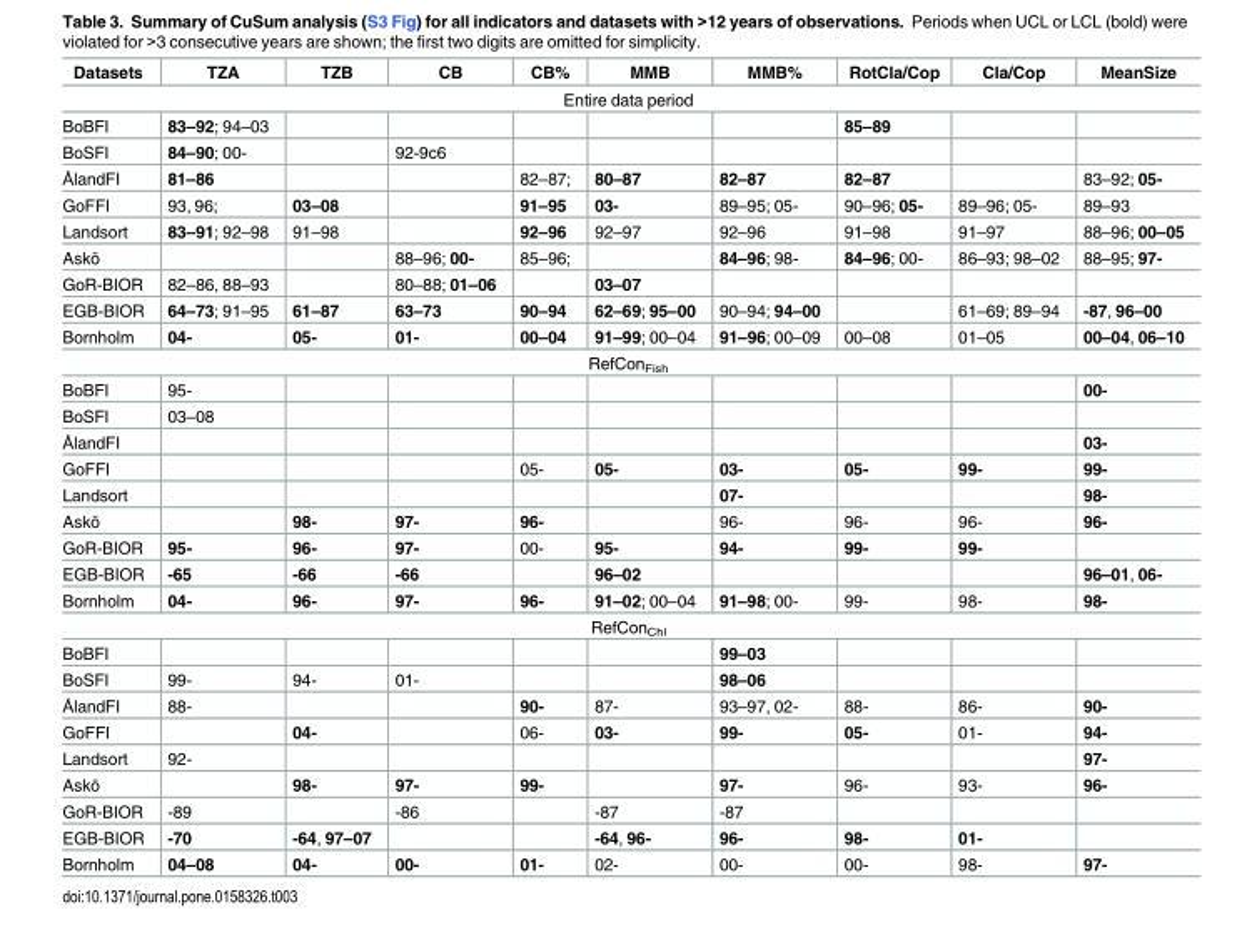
<table><thead><tr><td>Datasets</td><td>TZA</td><td>TZB</td><td>CB</td><td>CB%</td><td>MMB</td><td>MMB%</td><td>RotCla/Cop</td><td>Cla/Cop</td><td>MeanSize</td></tr></thead><tbody><tr><td colspan="10">Entire data period</td></tr><tr><td>BoBFI</td><td>83–92; 94–03</td><td></td><td></td><td></td><td></td><td></td><td>85–89</td><td></td><td></td></tr><tr><td>BoSFI</td><td>84–90; 00-</td><td></td><td>92-9c6</td><td></td><td></td><td></td><td></td><td></td><td></td></tr><tr><td>ÅlandFI</td><td>81–86</td><td></td><td></td><td>82–87;</td><td>80–87</td><td>82–87</td><td>82–87</td><td></td><td>83–92; 05-</td></tr><tr><td>GoFFI</td><td>93, 96;</td><td>03–08</td><td></td><td>91–95</td><td>03-</td><td>89–95; 05-</td><td>90–96; 05-</td><td>89–96; 05-</td><td>89–93</td></tr><tr><td>Landsort</td><td>83–91; 92–98</td><td>91–98</td><td></td><td>92–96</td><td>92–97</td><td>92–96</td><td>91–98</td><td>91–97</td><td>88–96; 00–05</td></tr><tr><td>Askö</td><td></td><td></td><td>88–96; 00-</td><td>85–96;</td><td></td><td>84–96; 98-</td><td>84–96; 00-</td><td>86–93; 98–02</td><td>88–95; 97-</td></tr><tr><td>GoR-BIOR</td><td>82–86, 88–93</td><td></td><td>80–88; 01–06</td><td></td><td>03–07</td><td></td><td></td><td></td><td></td></tr><tr><td>EGB-BIOR</td><td>64–73; 91–95</td><td>61–87</td><td>63–73</td><td>90–94</td><td>62–69; 95–00</td><td>90–94; 94–00</td><td></td><td>61–69; 89–94</td><td>-87, 96–00</td></tr><tr><td>Bornholm</td><td>04-</td><td>05-</td><td>01-</td><td>00–04</td><td>91–99; 00–04</td><td>91–96; 00–09</td><td>00–08</td><td>01–05</td><td>00–04, 06–10</td></tr><tr><td colspan="10">RefCon<sub>Fish</sub></td></tr><tr><td>BoBFI</td><td>95-</td><td></td><td></td><td></td><td></td><td></td><td></td><td></td><td>00-</td></tr><tr><td>BoSFI</td><td>03–08</td><td></td><td></td><td></td><td></td><td></td><td></td><td></td><td></td></tr><tr><td>ÅlandFI</td><td></td><td></td><td></td><td></td><td></td><td></td><td></td><td></td><td>03-</td></tr><tr><td>GoFFI</td><td></td><td></td><td></td><td>05-</td><td>05-</td><td>03-</td><td>05-</td><td>99-</td><td>99-</td></tr><tr><td>Landsort</td><td></td><td></td><td></td><td></td><td></td><td>07-</td><td></td><td></td><td>98-</td></tr><tr><td>Askö</td><td></td><td>98-</td><td>97-</td><td>96-</td><td></td><td>96-</td><td>96-</td><td>96-</td><td>96-</td></tr><tr><td>GoR-BIOR</td><td>95-</td><td>96-</td><td>97-</td><td>00-</td><td>95-</td><td>94-</td><td>99-</td><td>99-</td><td></td></tr><tr><td>EGB-BIOR</td><td>-65</td><td>-66</td><td>-66</td><td></td><td>96–02</td><td></td><td></td><td></td><td>96–01, 06-</td></tr><tr><td>Bornholm</td><td>04-</td><td>96-</td><td>97-</td><td>96-</td><td>91–02; 00–04</td><td>91–98; 00-</td><td>99-</td><td>98-</td><td>98-</td></tr><tr><td colspan="10">RefCon<sub>Chl</sub></td></tr><tr><td>BoBFI</td><td></td><td></td><td></td><td></td><td></td><td>99–03</td><td></td><td></td><td></td></tr><tr><td>BoSFI</td><td>99-</td><td>94-</td><td>01-</td><td></td><td></td><td>98–06</td><td></td><td></td><td></td></tr><tr><td>ÅlandFI</td><td>88-</td><td></td><td></td><td>90-</td><td>87-</td><td>93–97, 02-</td><td>88-</td><td>86-</td><td>90-</td></tr><tr><td>GoFFI</td><td></td><td>04-</td><td></td><td>06-</td><td>03-</td><td>99-</td><td>05-</td><td>01-</td><td>94-</td></tr><tr><td>Landsort</td><td>92-</td><td></td><td></td><td></td><td></td><td></td><td></td><td></td><td>97-</td></tr><tr><td>Askö</td><td></td><td>98-</td><td>97-</td><td>99-</td><td></td><td>97-</td><td>96-</td><td>93-</td><td>96-</td></tr><tr><td>GoR-BIOR</td><td>-89</td><td></td><td>-86</td><td></td><td>-87</td><td>-87</td><td></td><td></td><td></td></tr><tr><td>EGB-BIOR</td><td>-70</td><td>-64, 97–07</td><td></td><td></td><td>-64, 96-</td><td>96-</td><td>98-</td><td>01-</td><td></td></tr><tr><td>Bornholm</td><td>04–08</td><td>04-</td><td>00-</td><td>01-</td><td>02-</td><td>00-</td><td>00-</td><td>98-</td><td>97-</td></tr></tbody></table>